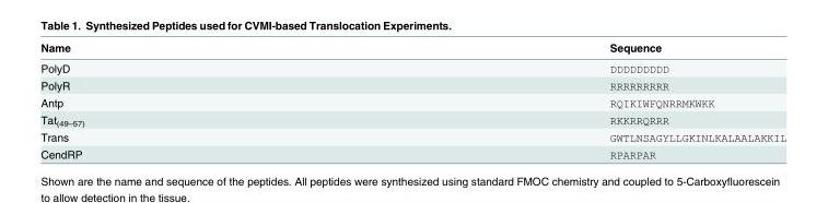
<table><thead><tr><td>Name</td><td>Sequence</td></tr></thead><tbody><tr><td>PolyD</td><td>DDDDDDDDD</td></tr><tr><td>PolyR</td><td>RRRRRRRRR</td></tr><tr><td>Antp</td><td>RQIKIWFQNRRMKWKK</td></tr><tr><td>Tat<sub>(49–57)</sub></td><td>RKKRRQRRR</td></tr><tr><td>Trans</td><td>GWTLNSAGYLLGKINLKALAALAKKIL</td></tr><tr><td>CendRP</td><td>RPARPAR</td></tr></tbody></table>